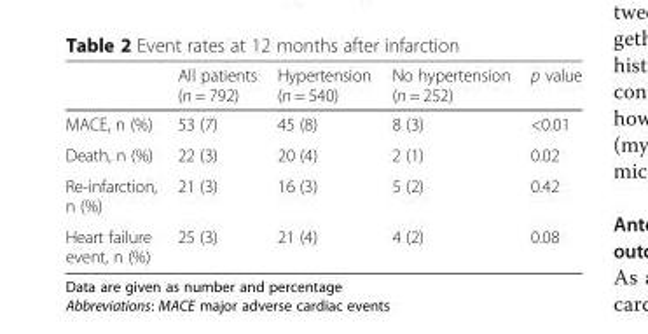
<table><thead><tr><td></td><td>All patients (n = 792)</td><td>Hypertension (n = 540)</td><td>No hypertension (n = 252)</td><td>p value</td></tr></thead><tbody><tr><td>MACE, n (%)</td><td>53 (7)</td><td>45 (8)</td><td>8 (3)</td><td>&lt;0.01</td></tr><tr><td>Death, n (%)</td><td>22 (3)</td><td>20 (4)</td><td>2 (1)</td><td>0.02</td></tr><tr><td>Re-infarction, n (%)</td><td>21 (3)</td><td>16 (3)</td><td>5 (2)</td><td>0.42</td></tr><tr><td>Heart failure event, n (%)</td><td>25 (3)</td><td>21 (4)</td><td>4 (2)</td><td>0.08</td></tr></tbody></table>